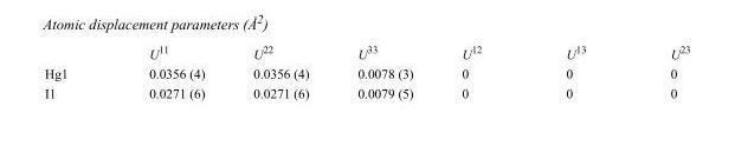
<table><thead><tr><td></td><td>U<sup>11</sup></td><td>U<sup>22</sup></td><td>U<sup>33</sup></td><td>U<sup>12</sup></td><td>U<sup>13</sup></td><td>U<sup>23</sup></td></tr></thead><tbody><tr><td>Hg1</td><td>0.0356 (4)</td><td>0.0356 (4)</td><td>0.0078 (3)</td><td>0</td><td>0</td><td>0</td></tr><tr><td>I1</td><td>0.0271 (6)</td><td>0.0271 (6)</td><td>0.0079 (5)</td><td>0</td><td>0</td><td>0</td></tr></tbody></table>